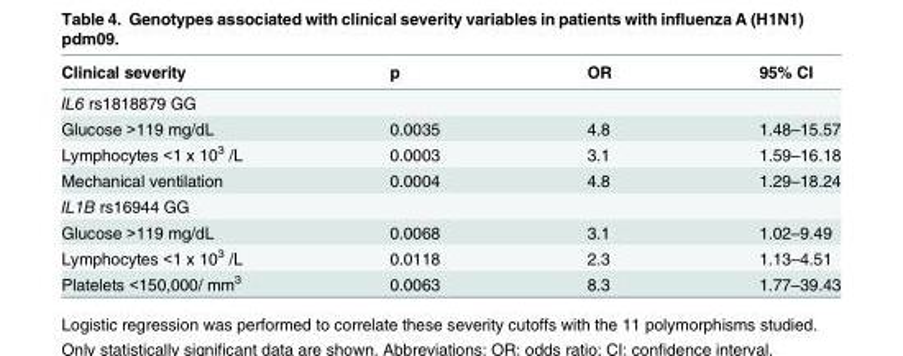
<table><thead><tr><td>Clinical severity</td><td>p</td><td>OR</td><td>95% CI</td></tr></thead><tbody><tr><td colspan="4">IL6 rs1818879 GG</td></tr><tr><td>Glucose &gt;119 mg/dL</td><td>0.0035</td><td>4.8</td><td>1.48–15.57</td></tr><tr><td>Lymphocytes &lt;1 x 10<sup>3</sup> /L</td><td>0.0003</td><td>3.1</td><td>1.59–16.18</td></tr><tr><td>Mechanical ventilation</td><td>0.0004</td><td>4.8</td><td>1.29–18.24</td></tr><tr><td colspan="4">IL1B rs16944 GG</td></tr><tr><td>Glucose &gt;119 mg/dL</td><td>0.0068</td><td>3.1</td><td>1.02–9.49</td></tr><tr><td>Lymphocytes &lt;1 x 10<sup>3</sup> /L</td><td>0.0118</td><td>2.3</td><td>1.13–4.51</td></tr><tr><td>Platelets &lt;150,000/ mm<sup>3</sup></td><td>0.0063</td><td>8.3</td><td>1.77–39.43</td></tr></tbody></table>